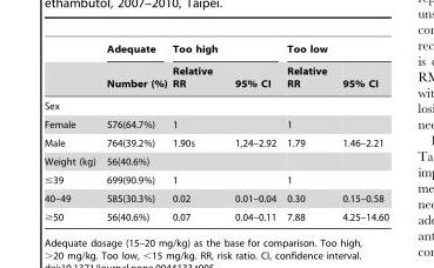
<table><thead><tr><td rowspan="2"></td><td rowspan="2">Adequate Number (%)</td><td colspan="2">Too high</td><td colspan="2">Too low</td></tr><tr><td>Relative RR</td><td>95% CI</td><td>Relative RR</td><td>95% CI</td></tr></thead><tbody><tr><td colspan="6">Sex</td></tr><tr><td>Female</td><td>576(64.7%)</td><td>1</td><td></td><td>1</td><td></td></tr><tr><td>Male</td><td>764(39.2%)</td><td>1.90s</td><td>1,24–2.92</td><td>1.79</td><td>1.46–2.21</td></tr><tr><td>Weight (kg)</td><td>56(40.6%)</td><td></td><td></td><td></td><td></td></tr><tr><td>≤39</td><td>699(90.9%)</td><td>1</td><td></td><td>1</td><td></td></tr><tr><td>40–49</td><td>585(30.3%)</td><td>0.02</td><td>0.01–0.04</td><td>0.30</td><td>0.15–0.58</td></tr><tr><td>≥50</td><td>56(40.6%)</td><td>0.07</td><td>0.04–0.11</td><td>7.88</td><td>4.25–14.60</td></tr></tbody></table>